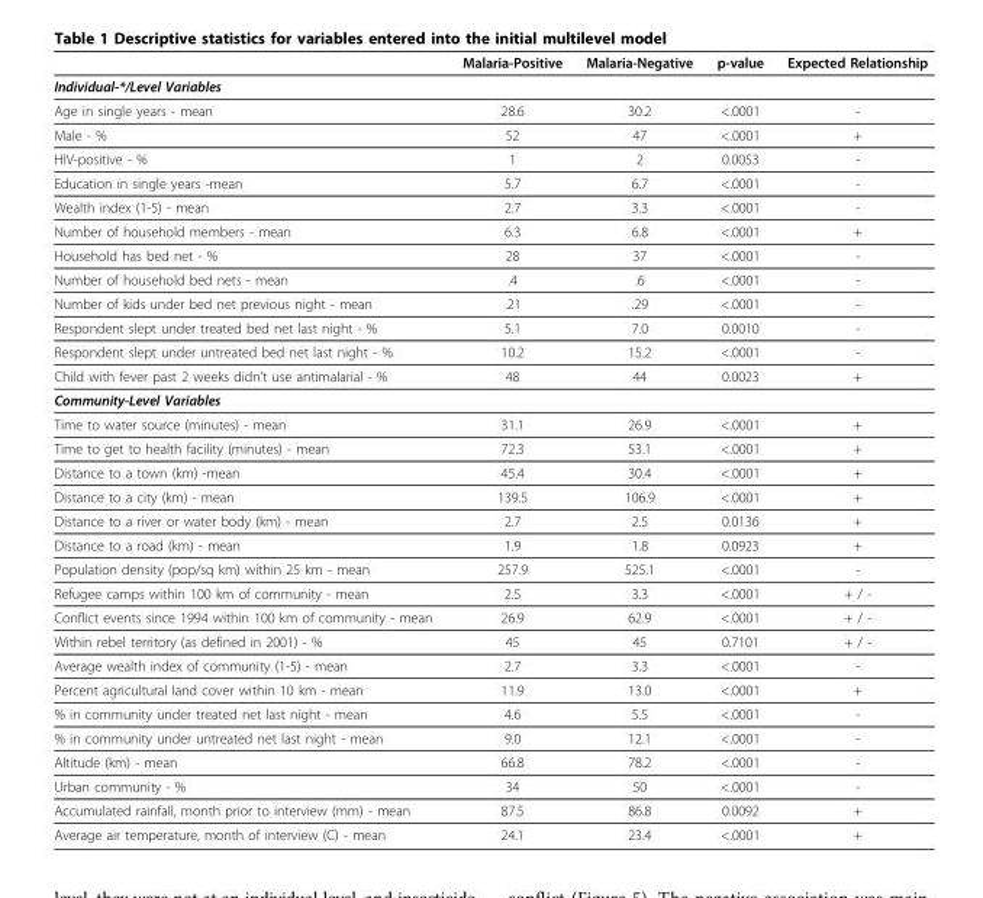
<table><thead><tr><td></td><td>Malaria-Positive</td><td>Malaria-Negative</td><td>p-value</td><td>Expected Relationship</td></tr></thead><tbody><tr><td colspan="5">Individual-*/Level Variables</td></tr><tr><td>Age in single years - mean</td><td>28.6</td><td>30.2</td><td>&lt;.0001</td><td>-</td></tr><tr><td>Male - %</td><td>52</td><td>47</td><td>&lt;.0001</td><td>+</td></tr><tr><td>HIV-positive - %</td><td>1</td><td>2</td><td>0.0053</td><td>-</td></tr><tr><td>Education in single years -mean</td><td>5.7</td><td>6.7</td><td>&lt;.0001</td><td>-</td></tr><tr><td>Wealth index (1-5) - mean</td><td>2.7</td><td>3.3</td><td>&lt;.0001</td><td>-</td></tr><tr><td>Number of household members - mean</td><td>6.3</td><td>6.8</td><td>&lt;.0001</td><td>+</td></tr><tr><td>Household has bed net - %</td><td>28</td><td>37</td><td>&lt;.0001</td><td>-</td></tr><tr><td>Number of household bed nets - mean</td><td>.4</td><td>.6</td><td>&lt;.0001</td><td>-</td></tr><tr><td>Number of kids under bed net previous night - mean</td><td>.21</td><td>.29</td><td>&lt;.0001</td><td>-</td></tr><tr><td>Respondent slept under treated bed net last night - %</td><td>5.1</td><td>7.0</td><td>0.0010</td><td>-</td></tr><tr><td>Respondent slept under untreated bed net last night - %</td><td>10.2</td><td>15.2</td><td>&lt;.0001</td><td>-</td></tr><tr><td>Child with fever past 2 weeks didn’t use antimalarial - %</td><td>48</td><td>44</td><td>0.0023</td><td>+</td></tr><tr><td colspan="5">Community-Level Variables</td></tr><tr><td>Time to water source (minutes) - mean</td><td>31.1</td><td>26.9</td><td>&lt;.0001</td><td>+</td></tr><tr><td>Time to get to health facility (minutes) - mean</td><td>72.3</td><td>53.1</td><td>&lt;.0001</td><td>+</td></tr><tr><td>Distance to a town (km) -mean</td><td>45.4</td><td>30.4</td><td>&lt;.0001</td><td>+</td></tr><tr><td>Distance to a city (km) - mean</td><td>139.5</td><td>106.9</td><td>&lt;.0001</td><td>+</td></tr><tr><td>Distance to a river or water body (km) - mean</td><td>2.7</td><td>2.5</td><td>0.0136</td><td>+</td></tr><tr><td>Distance to a road (km) - mean</td><td>1.9</td><td>1.8</td><td>0.0923</td><td>+</td></tr><tr><td>Population density (pop/sq km) within 25 km - mean</td><td>257.9</td><td>525.1</td><td>&lt;.0001</td><td>-</td></tr><tr><td>Refugee camps within 100 km of community - mean</td><td>2.5</td><td>3.3</td><td>&lt;.0001</td><td>+ / -</td></tr><tr><td>Conflict events since 1994 within 100 km of community - mean</td><td>26.9</td><td>62.9</td><td>&lt;.0001</td><td>+ / -</td></tr><tr><td>Within rebel territory (as defined in 2001) - %</td><td>45</td><td>45</td><td>0.7101</td><td>+ / -</td></tr><tr><td>Average wealth index of community (1-5) - mean</td><td>2.7</td><td>3.3</td><td>&lt;.0001</td><td>-</td></tr><tr><td>Percent agricultural land cover within 10 km - mean</td><td>11.9</td><td>13.0</td><td>&lt;.0001</td><td>+</td></tr><tr><td>% in community under treated net last night - mean</td><td>4.6</td><td>5.5</td><td>&lt;.0001</td><td>-</td></tr><tr><td>% in community under untreated net last night - mean</td><td>9.0</td><td>12.1</td><td>&lt;.0001</td><td>-</td></tr><tr><td>Altitude (km) - mean</td><td>66.8</td><td>78.2</td><td>&lt;.0001</td><td>-</td></tr><tr><td>Urban community - %</td><td>34</td><td>50</td><td>&lt;.0001</td><td>-</td></tr><tr><td>Accumulated rainfall, month prior to interview (mm) - mean</td><td>87.5</td><td>86.8</td><td>0.0092</td><td>+</td></tr><tr><td>Average air temperature, month of interview (C) - mean</td><td>24.1</td><td>23.4</td><td>&lt;.0001</td><td>+</td></tr></tbody></table>